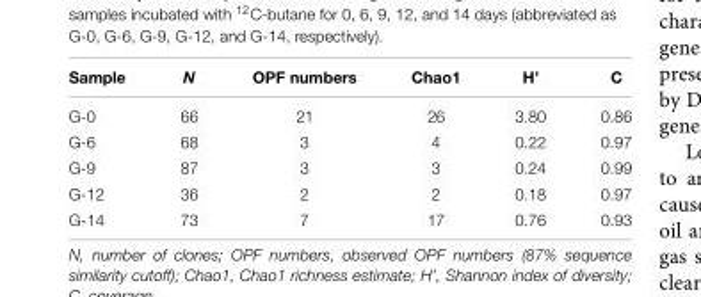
<table><thead><tr><td>Sample</td><td>N</td><td>OPF numbers</td><td>Chao1</td><td>H’</td><td>C</td></tr></thead><tbody><tr><td>G-0</td><td>66</td><td>21</td><td>26</td><td>3.80</td><td>0.86</td></tr><tr><td>G-6</td><td>68</td><td>3</td><td>4</td><td>0.22</td><td>0.97</td></tr><tr><td>G-9</td><td>87</td><td>3</td><td>3</td><td>0.24</td><td>0.99</td></tr><tr><td>G-12</td><td>36</td><td>2</td><td>2</td><td>0.18</td><td>0.97</td></tr><tr><td>G-14</td><td>73</td><td>7</td><td>17</td><td>0.76</td><td>0.93</td></tr></tbody></table>